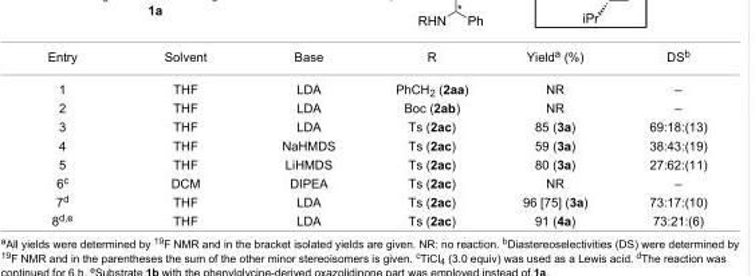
<table><tbody><tr><td>Entry</td><td>Solvent</td><td>Base</td><td>R</td><td>Yield<sup>a</sup> (%)</td><td>DS<sup>b</sup></td></tr><tr><td>1</td><td>THF</td><td>LDA</td><td>PhCH<sub>2</sub> (2aa)</td><td>NR</td><td>–</td></tr><tr><td>2</td><td>THF</td><td>LDA</td><td>Boc (2ab)</td><td>NR</td><td>–</td></tr><tr><td>3</td><td>THF</td><td>LDA</td><td>Ts (2ac)</td><td>85 (3a)</td><td>69:18:(13)</td></tr><tr><td>4</td><td>THF</td><td>NaHMDS</td><td>Ts (2ac)</td><td>59 (3a)</td><td>38:43:(19)</td></tr><tr><td>5</td><td>THF</td><td>LiHMDS</td><td>Ts (2ac)</td><td>80 (3a)</td><td>27:62:(11)</td></tr><tr><td>6<sup>c</sup></td><td>DCM</td><td>DIPEA</td><td>Ts (2ac)</td><td>NR</td><td>–</td></tr><tr><td>7<sup>d</sup></td><td>THF</td><td>LDA</td><td>Ts (2ac)</td><td>96 [75] (3a)</td><td>73:17:(10)</td></tr><tr><td>8<sup>d,e</sup></td><td>THF</td><td>LDA</td><td>Ts (2ac)</td><td>91 (4a)</td><td>73:21:(6)</td></tr></tbody></table>